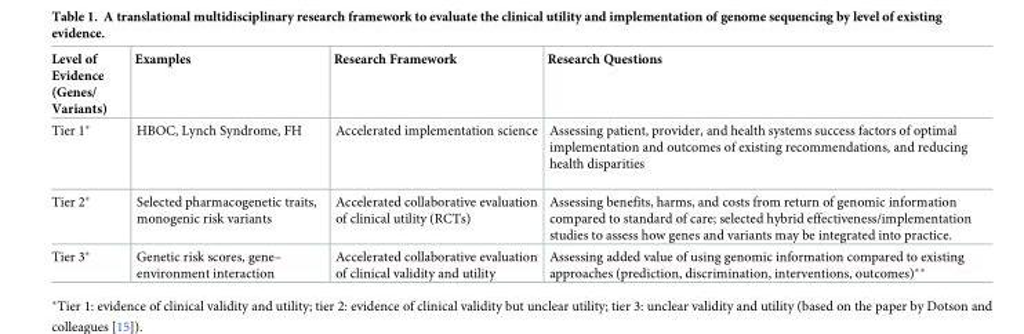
<table><thead><tr><td>Level of Evidence (Genes/ Variants)</td><td>Examples</td><td>Research Framework</td><td>Research Questions</td></tr></thead><tbody><tr><td>Tier 1*</td><td>HBOC, Lynch Syndrome, FH</td><td>Accelerated implementation science</td><td>Assessing patient, provider, and health systems success factors of optimal implementation and outcomes of existing recommendations, and reducing health disparities</td></tr><tr><td>Tier 2*</td><td>Selected pharmacogenetic traits, monogenic risk variants</td><td>Accelerated collaborative evaluation of clinical utility (RCTs)</td><td>Assessing benefits, harms, and costs from return of genomic information compared to standard of care; selected hybrid effectiveness/implementation studies to assess how genes and variants may be integrated into practice.</td></tr><tr><td>Tier 3*</td><td>Genetic risk scores, gene– environment interaction</td><td>Accelerated collaborative evaluation of clinical validity and utility</td><td>Assessing added value of using genomic information compared to existing approaches (prediction, discrimination, interventions, outcomes)**</td></tr></tbody></table>